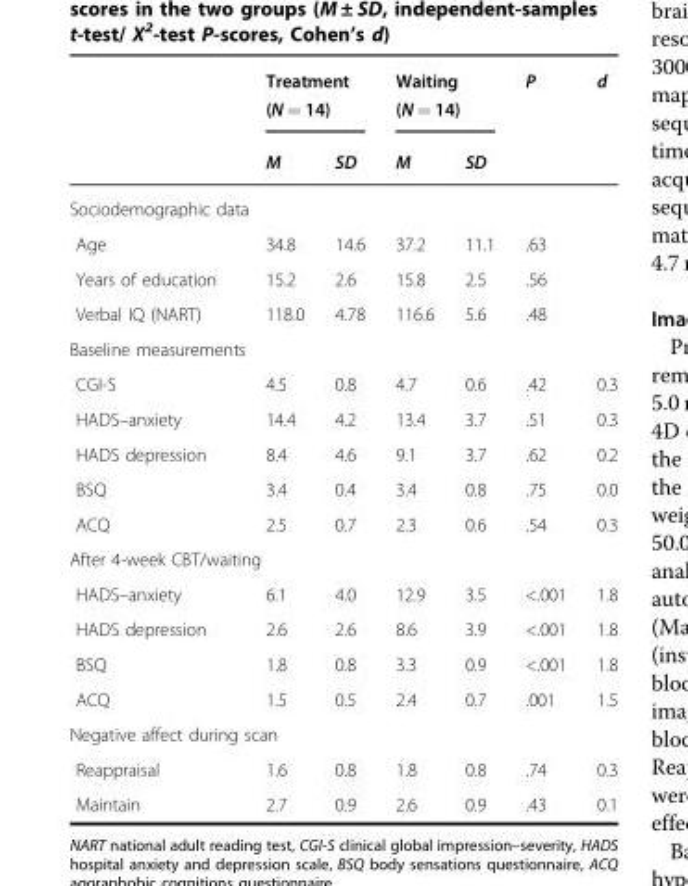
<table><thead><tr><td rowspan="2"></td><td colspan="2">Treatment (N = 14)</td><td colspan="2">Waiting (N = 14)</td><td rowspan="2">P</td><td rowspan="2">d</td></tr><tr><td>M</td><td>SD</td><td>M</td><td>SD</td></tr></thead><tbody><tr><td colspan="7">Sociodemographic data</td></tr><tr><td>Age</td><td>34.8</td><td>14.6</td><td>37.2</td><td>11.1</td><td>.63</td><td></td></tr><tr><td>Years of education</td><td>15.2</td><td>2.6</td><td>15.8</td><td>2.5</td><td>.56</td><td></td></tr><tr><td>Verbal IQ (NART)</td><td>118.0</td><td>4.78</td><td>116.6</td><td>5.6</td><td>.48</td><td></td></tr><tr><td colspan="7">Baseline measurements</td></tr><tr><td>CGI-S</td><td>4.5</td><td>0.8</td><td>4.7</td><td>0.6</td><td>.42</td><td>0.3</td></tr><tr><td>HADS–anxiety</td><td>14.4</td><td>4.2</td><td>13.4</td><td>3.7</td><td>.51</td><td>0.3</td></tr><tr><td>HADS depression</td><td>8.4</td><td>4.6</td><td>9.1</td><td>3.7</td><td>.62</td><td>0.2</td></tr><tr><td>BSQ</td><td>3.4</td><td>0.4</td><td>3.4</td><td>0.8</td><td>.75</td><td>0.0</td></tr><tr><td>ACQ</td><td>2.5</td><td>0.7</td><td>2.3</td><td>0.6</td><td>.54</td><td>0.3</td></tr><tr><td colspan="7">After 4-week CBT/waiting</td></tr><tr><td>HADS–anxiety</td><td>6.1</td><td>4.0</td><td>12.9</td><td>3.5</td><td>&lt;.001</td><td>1.8</td></tr><tr><td>HADS depression</td><td>2.6</td><td>2.6</td><td>8.6</td><td>3.9</td><td>&lt;.001</td><td>1.8</td></tr><tr><td>BSQ</td><td>1.8</td><td>0.8</td><td>3.3</td><td>0.9</td><td>&lt;.001</td><td>1.8</td></tr><tr><td>ACQ</td><td>1.5</td><td>0.5</td><td>2.4</td><td>0.7</td><td>.001</td><td>1.5</td></tr><tr><td colspan="7">Negative affect during scan</td></tr><tr><td>Reappraisal</td><td>1.6</td><td>0.8</td><td>1.8</td><td>0.8</td><td>.74</td><td>0.3</td></tr><tr><td>Maintain</td><td>2.7</td><td>0.9</td><td>2.6</td><td>0.9</td><td>.43</td><td>0.1</td></tr></tbody></table>